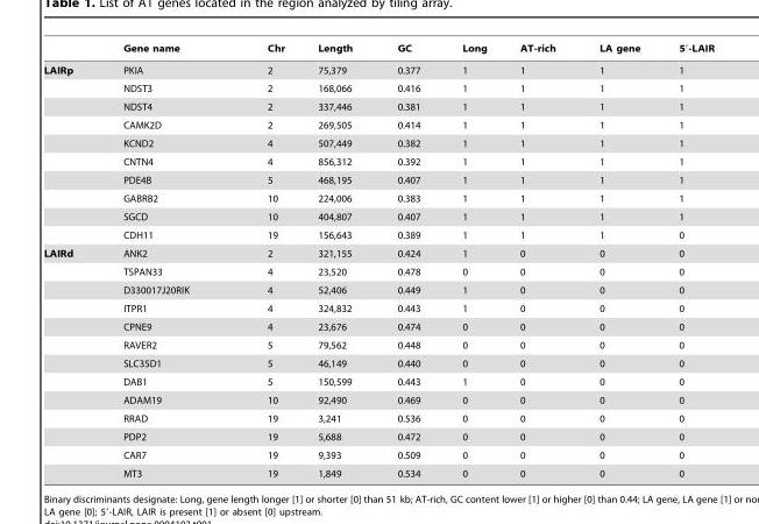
<table><thead><tr><td></td><td>Gene name</td><td>Chr</td><td>Length</td><td>GC</td><td>Long</td><td>AT-rich</td><td>LA gene</td><td>5′-LAIR</td></tr></thead><tbody><tr><td rowspan="10">LAIRp</td><td>PKIA</td><td>2</td><td>75,379</td><td>0.377</td><td>1</td><td>1</td><td>1</td><td>1</td></tr><tr><td>NDST3</td><td>2</td><td>168,066</td><td>0.416</td><td>1</td><td>1</td><td>1</td><td>1</td></tr><tr><td>NDST4</td><td>2</td><td>337,446</td><td>0.381</td><td>1</td><td>1</td><td>1</td><td>1</td></tr><tr><td>CAMK2D</td><td>2</td><td>269,505</td><td>0.414</td><td>1</td><td>1</td><td>1</td><td>1</td></tr><tr><td>KCND2</td><td>4</td><td>507,449</td><td>0.382</td><td>1</td><td>1</td><td>1</td><td>1</td></tr><tr><td>CNTN4</td><td>4</td><td>856,312</td><td>0.392</td><td>1</td><td>1</td><td>1</td><td>1</td></tr><tr><td>PDE4B</td><td>5</td><td>468,195</td><td>0.407</td><td>1</td><td>1</td><td>1</td><td>1</td></tr><tr><td>GABRB2</td><td>10</td><td>224,006</td><td>0.383</td><td>1</td><td>1</td><td>1</td><td>1</td></tr><tr><td>SGCD</td><td>10</td><td>404,807</td><td>0.407</td><td>1</td><td>1</td><td>1</td><td>1</td></tr><tr><td>CDH11</td><td>19</td><td>156,643</td><td>0.389</td><td>1</td><td>1</td><td>1</td><td>0</td></tr><tr><td rowspan="13">LAIRd</td><td>ANK2</td><td>2</td><td>321,155</td><td>0.424</td><td>1</td><td>0</td><td>0</td><td>0</td></tr><tr><td>TSPAN33</td><td>4</td><td>23,520</td><td>0.478</td><td>0</td><td>0</td><td>0</td><td>0</td></tr><tr><td>D330017J20RIK</td><td>4</td><td>52,406</td><td>0.449</td><td>1</td><td>0</td><td>0</td><td>0</td></tr><tr><td>ITPR1</td><td>4</td><td>324,832</td><td>0.443</td><td>1</td><td>0</td><td>0</td><td>0</td></tr><tr><td>CPNE9</td><td>4</td><td>23,676</td><td>0.474</td><td>0</td><td>0</td><td>0</td><td>0</td></tr><tr><td>RAVER2</td><td>5</td><td>79,562</td><td>0.448</td><td>0</td><td>0</td><td>0</td><td>0</td></tr><tr><td>SLC35D1</td><td>5</td><td>46,149</td><td>0.440</td><td>0</td><td>0</td><td>0</td><td>0</td></tr><tr><td>DAB1</td><td>5</td><td>150,599</td><td>0.443</td><td>1</td><td>0</td><td>0</td><td>0</td></tr><tr><td>ADAM19</td><td>10</td><td>92,490</td><td>0.469</td><td>0</td><td>0</td><td>0</td><td>0</td></tr><tr><td>RRAD</td><td>19</td><td>3,241</td><td>0.536</td><td>0</td><td>0</td><td>0</td><td>0</td></tr><tr><td>PDP2</td><td>19</td><td>5,688</td><td>0.472</td><td>0</td><td>0</td><td>0</td><td>0</td></tr><tr><td>CAR7</td><td>19</td><td>9,393</td><td>0.509</td><td>0</td><td>0</td><td>0</td><td>0</td></tr><tr><td>MT3</td><td>19</td><td>1,849</td><td>0.534</td><td>0</td><td>0</td><td>0</td><td>0</td></tr></tbody></table>